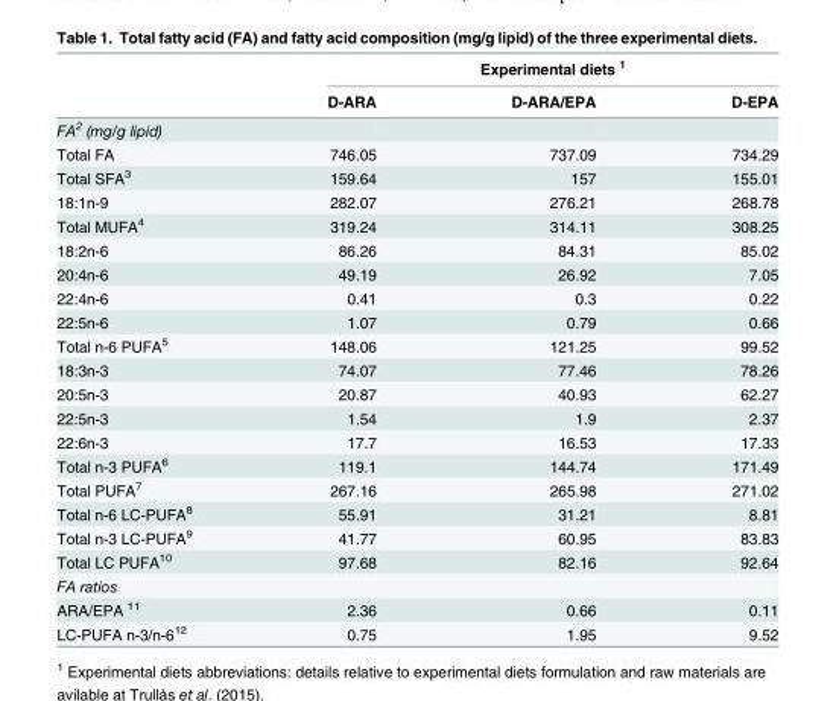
<table><thead><tr><td rowspan="2"></td><td colspan="3">Experimental diets <sup>1</sup></td></tr><tr><td>D-ARA</td><td>D-ARA/EPA</td><td>D-EPA</td></tr></thead><tbody><tr><td colspan="4">FA<sup>2</sup> (mg/g lipid)</td></tr><tr><td>Total FA</td><td>746.05</td><td>737.09</td><td>734.29</td></tr><tr><td>Total SFA<sup>3</sup></td><td>159.64</td><td>157</td><td>155.01</td></tr><tr><td>18:1n-9</td><td>282.07</td><td>276.21</td><td>268.78</td></tr><tr><td>Total MUFA<sup>4</sup></td><td>319.24</td><td>314.11</td><td>308.25</td></tr><tr><td>18:2n-6</td><td>86.26</td><td>84.31</td><td>85.02</td></tr><tr><td>20:4n-6</td><td>49.19</td><td>26.92</td><td>7.05</td></tr><tr><td>22:4n-6</td><td>0.41</td><td>0.3</td><td>0.22</td></tr><tr><td>22:5n-6</td><td>1.07</td><td>0.79</td><td>0.66</td></tr><tr><td>Total n-6 PUFA<sup>5</sup></td><td>148.06</td><td>121.25</td><td>99.52</td></tr><tr><td>18:3n-3</td><td>74.07</td><td>77.46</td><td>78.26</td></tr><tr><td>20:5n-3</td><td>20.87</td><td>40.93</td><td>62.27</td></tr><tr><td>22:5n-3</td><td>1.54</td><td>1.9</td><td>2.37</td></tr><tr><td>22:6n-3</td><td>17.7</td><td>16.53</td><td>17.33</td></tr><tr><td>Total n-3 PUFA<sup>6</sup></td><td>119.1</td><td>144.74</td><td>171.49</td></tr><tr><td>Total PUFA<sup>7</sup></td><td>267.16</td><td>265.98</td><td>271.02</td></tr><tr><td>Total n-6 LC-PUFA<sup>8</sup></td><td>55.91</td><td>31.21</td><td>8.81</td></tr><tr><td>Total n-3 LC-PUFA<sup>9</sup></td><td>41.77</td><td>60.95</td><td>83.83</td></tr><tr><td>Total LC PUFA<sup>10</sup></td><td>97.68</td><td>82.16</td><td>92.64</td></tr><tr><td colspan="4">FA ratios</td></tr><tr><td>ARA/EPA <sup>11</sup></td><td>2.36</td><td>0.66</td><td>0.11</td></tr><tr><td>LC-PUFA n-3/n-6<sup>12</sup></td><td>0.75</td><td>1.95</td><td>9.52</td></tr></tbody></table>